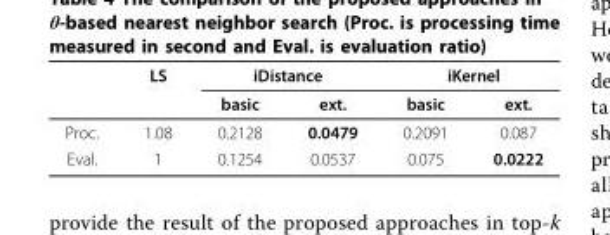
<table><thead><tr><td rowspan="2"></td><td rowspan="2">LS</td><td colspan="2">iDistance</td><td colspan="2">iKernel</td></tr><tr><td>basic</td><td>ext.</td><td>basic</td><td>ext.</td></tr></thead><tbody><tr><td>Proc.</td><td>1.08</td><td>0.2128</td><td>0.0479</td><td>0.2091</td><td>0.087</td></tr><tr><td>Eval.</td><td>1</td><td>0.1254</td><td>0.0537</td><td>0.075</td><td>0.0222</td></tr></tbody></table>